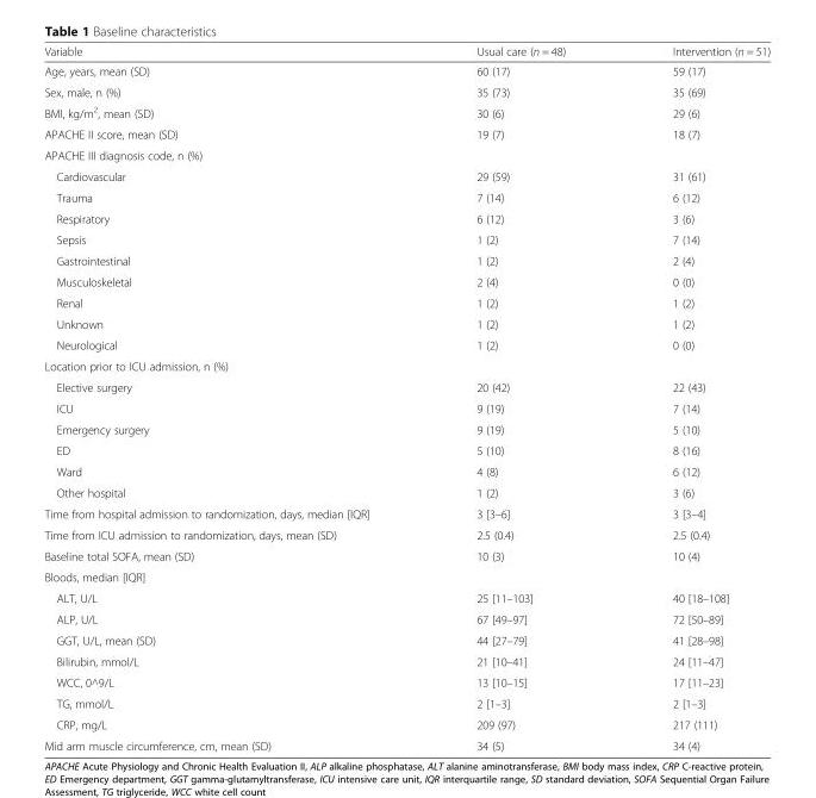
<table><thead><tr><td>Variable</td><td>Usual care (n = 48)</td><td>Intervention (n = 51)</td></tr></thead><tbody><tr><td>Age, years, mean (SD)</td><td>60 (17)</td><td>59 (17)</td></tr><tr><td>Sex, male, n (%)</td><td>35 (73)</td><td>35 (69)</td></tr><tr><td>BMI, kg/m<sup>2</sup>, mean (SD)</td><td>30 (6)</td><td>29 (6)</td></tr><tr><td>APACHE II score, mean (SD)</td><td>19 (7)</td><td>18 (7)</td></tr><tr><td colspan="3">APACHE III diagnosis code, n (%)</td></tr><tr><td>Cardiovascular</td><td>29 (59)</td><td>31 (61)</td></tr><tr><td>Trauma</td><td>7 (14)</td><td>6 (12)</td></tr><tr><td>Respiratory</td><td>6 (12)</td><td>3 (6)</td></tr><tr><td>Sepsis</td><td>1 (2)</td><td>7 (14)</td></tr><tr><td>Gastrointestinal</td><td>1 (2)</td><td>2 (4)</td></tr><tr><td>Musculoskeletal</td><td>2 (4)</td><td>0 (0)</td></tr><tr><td>Renal</td><td>1 (2)</td><td>1 (2)</td></tr><tr><td>Unknown</td><td>1 (2)</td><td>1 (2)</td></tr><tr><td>Neurological</td><td>1 (2)</td><td>0 (0)</td></tr><tr><td colspan="3">Location prior to ICU admission, n (%)</td></tr><tr><td>Elective surgery</td><td>20 (42)</td><td>22 (43)</td></tr><tr><td>ICU</td><td>9 (19)</td><td>7 (14)</td></tr><tr><td>Emergency surgery</td><td>9 (19)</td><td>5 (10)</td></tr><tr><td>ED</td><td>5 (10)</td><td>8 (16)</td></tr><tr><td>Ward</td><td>4 (8)</td><td>6 (12)</td></tr><tr><td>Other hospital</td><td>1 (2)</td><td>3 (6)</td></tr><tr><td>Time from hospital admission to randomization, days, median [IQR]</td><td>3 [3–6]</td><td>3 [3–4]</td></tr><tr><td>Time from ICU admission to randomization, days, mean (SD)</td><td>2.5 (0.4)</td><td>2.5 (0.4)</td></tr><tr><td>Baseline total SOFA, mean (SD)</td><td>10 (3)</td><td>10 (4)</td></tr><tr><td colspan="3">Bloods, median [IQR]</td></tr><tr><td>ALT, U/L</td><td>25 [11–103]</td><td>40 [18–108]</td></tr><tr><td>ALP, U/L</td><td>67 [49–97]</td><td>72 [50–89]</td></tr><tr><td>GGT, U/L, mean (SD)</td><td>44 [27–79]</td><td>41 [28–98]</td></tr><tr><td>Bilirubin, mmol/L</td><td>21 [10–41]</td><td>24 [11–47]</td></tr><tr><td>WCC, 0^9/L</td><td>13 [10–15]</td><td>17 [11–23]</td></tr><tr><td>TG, mmol/L</td><td>2 [1–3]</td><td>2 [1–3]</td></tr><tr><td>CRP, mg/L</td><td>209 (97)</td><td>217 (111)</td></tr><tr><td>Mid arm muscle circumference, cm, mean (SD)</td><td>34 (5)</td><td>34 (4)</td></tr></tbody></table>